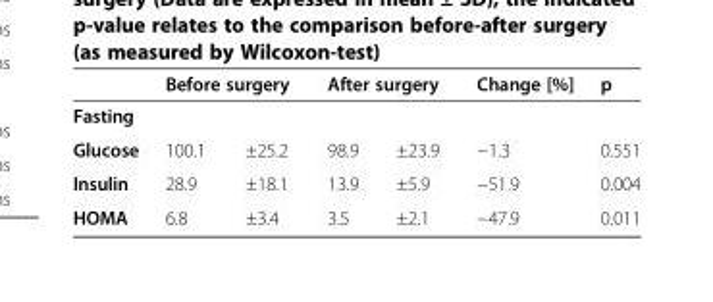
<table><thead><tr><td rowspan="2">Fasting</td><td colspan="2">Before surgery</td><td colspan="2">After surgery</td><td rowspan="2">Change [%]</td><td rowspan="2">p</td></tr><tr><td></td><td></td><td></td><td></td></tr></thead><tbody><tr><td>Glucose</td><td>100.1</td><td>±25.2</td><td>98.9</td><td>±23.9</td><td>−1.3</td><td>0.551</td></tr><tr><td>Insulin</td><td>28.9</td><td>±18.1</td><td>13.9</td><td>±5.9</td><td>−51.9</td><td>0.004</td></tr><tr><td>HOMA</td><td>6.8</td><td>±3.4</td><td>3.5</td><td>±2.1</td><td>−47.9</td><td>0.011</td></tr></tbody></table>